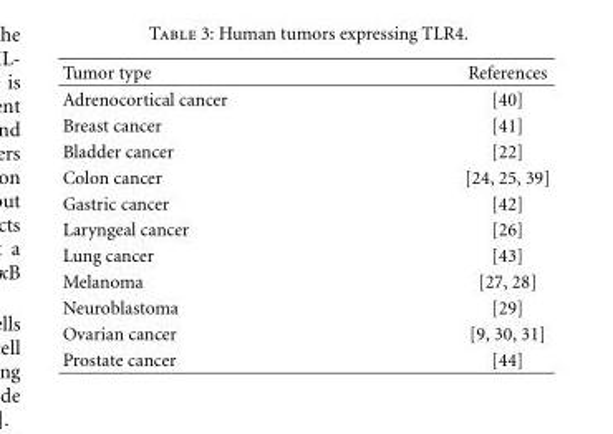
<table><thead><tr><td>Tumor type</td><td>References</td></tr></thead><tbody><tr><td>Adrenocortical cancer</td><td>[40]</td></tr><tr><td>Breast cancer</td><td>[41]</td></tr><tr><td>Bladder cancer</td><td>[22]</td></tr><tr><td>Colon cancer</td><td>[24, 25, 39]</td></tr><tr><td>Gastric cancer</td><td>[42]</td></tr><tr><td>Laryngeal cancer</td><td>[26]</td></tr><tr><td>Lung cancer</td><td>[43]</td></tr><tr><td>Melanoma</td><td>[27, 28]</td></tr><tr><td>Neuroblastoma</td><td>[29]</td></tr><tr><td>Ovarian cancer</td><td>[9, 30, 31]</td></tr><tr><td>Prostate cancer</td><td>[44]</td></tr></tbody></table>